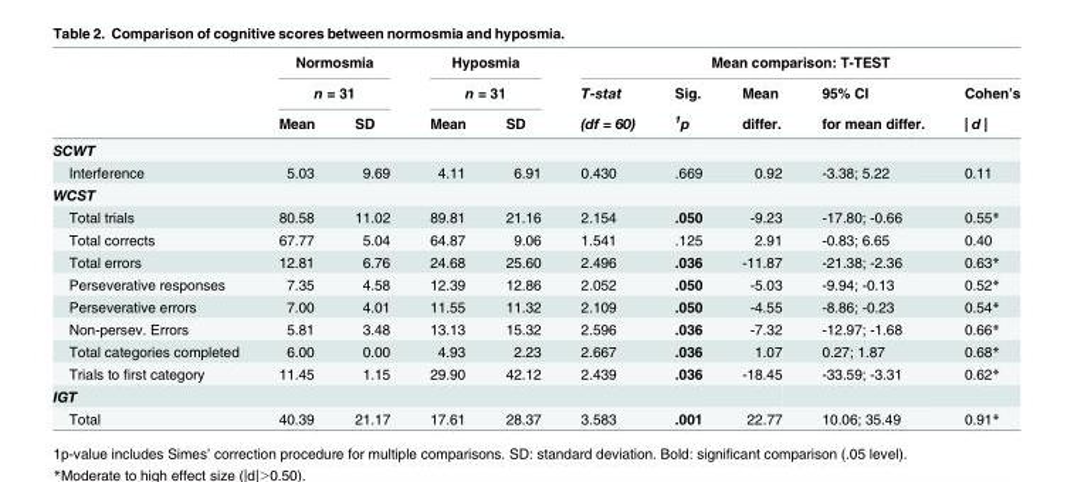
<table><thead><tr><td rowspan="3"></td><td rowspan="2" colspan="2">Normosmia n = 31</td><td rowspan="2" colspan="2">Hyposmia n = 31</td><td colspan="5">Mean comparison: T-TEST</td></tr><tr><td rowspan="2">T-stat (df = 60)</td><td rowspan="2">Sig. <sup>1</sup>p</td><td rowspan="2">Mean differ.</td><td rowspan="2">95% CI for mean differ.</td><td rowspan="2">Cohen’s | d |</td></tr><tr><td>Mean</td><td>SD</td><td>Mean</td><td>SD</td></tr></thead><tbody><tr><td colspan="10">SCWT</td></tr><tr><td>Interference</td><td>5.03</td><td>9.69</td><td>4.11</td><td>6.91</td><td>0.430</td><td>.669</td><td>0.92</td><td>-3.38; 5.22</td><td>0.11</td></tr><tr><td colspan="10">WCST</td></tr><tr><td>Total trials</td><td>80.58</td><td>11.02</td><td>89.81</td><td>21.16</td><td>2.154</td><td>.050</td><td>-9.23</td><td>-17.80; -0.66</td><td>0.55*</td></tr><tr><td>Total corrects</td><td>67.77</td><td>5.04</td><td>64.87</td><td>9.06</td><td>1.541</td><td>.125</td><td>2.91</td><td>-0.83; 6.65</td><td>0.40</td></tr><tr><td>Total errors</td><td>12.81</td><td>6.76</td><td>24.68</td><td>25.60</td><td>2.496</td><td>.036</td><td>-11.87</td><td>-21.38; -2.36</td><td>0.63*</td></tr><tr><td>Perseverative responses</td><td>7.35</td><td>4.58</td><td>12.39</td><td>12.86</td><td>2.052</td><td>.050</td><td>-5.03</td><td>-9.94; -0.13</td><td>0.52*</td></tr><tr><td>Perseverative errors</td><td>7.00</td><td>4.01</td><td>11.55</td><td>11.32</td><td>2.109</td><td>.050</td><td>-4.55</td><td>-8.86; -0.23</td><td>0.54*</td></tr><tr><td>Non-persev. Errors</td><td>5.81</td><td>3.48</td><td>13.13</td><td>15.32</td><td>2.596</td><td>.036</td><td>-7.32</td><td>-12.97; -1.68</td><td>0.66*</td></tr><tr><td>Total categories completed</td><td>6.00</td><td>0.00</td><td>4.93</td><td>2.23</td><td>2.667</td><td>.036</td><td>1.07</td><td>0.27; 1.87</td><td>0.68*</td></tr><tr><td>Trials to first category</td><td>11.45</td><td>1.15</td><td>29.90</td><td>42.12</td><td>2.439</td><td>.036</td><td>-18.45</td><td>-33.59; -3.31</td><td>0.62*</td></tr><tr><td colspan="10">IGT</td></tr><tr><td>Total</td><td>40.39</td><td>21.17</td><td>17.61</td><td>28.37</td><td>3.583</td><td>.001</td><td>22.77</td><td>10.06; 35.49</td><td>0.91*</td></tr></tbody></table>